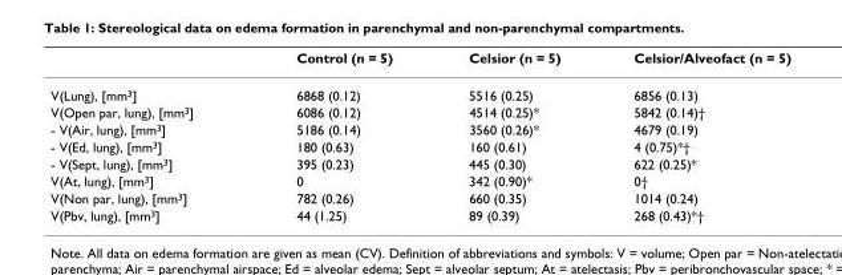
<table><thead><tr><td></td><td>Control (n = 5)</td><td>Celsior (n = 5)</td><td>Celsior/Alveofact (n = 5)</td></tr></thead><tbody><tr><td>V(Lung), [mm<sup>3</sup>]</td><td>6868 (0.12)</td><td>5516 (0.25)</td><td>6856 (0.13)</td></tr><tr><td>V(Open par, lung), [mm<sup>3</sup>]</td><td>6086 (0.12)</td><td>4514 (0.25)*</td><td>5842 (0.14)†</td></tr><tr><td>- V(Air, lung), [mm<sup>3</sup>]</td><td>5186 (0.14)</td><td>3560 (0.26)*</td><td>4679 (0.19)</td></tr><tr><td>- V(Ed, lung), [mm<sup>3</sup>]</td><td>180 (0.63)</td><td>160 (0.61)</td><td>4 (0.75)*†</td></tr><tr><td>- V(Sept, lung), [mm<sup>3</sup>]</td><td>395 (0.23)</td><td>445 (0.30)</td><td>622 (0.25)*</td></tr><tr><td>V(At, lung), [mm<sup>3</sup>]</td><td>0</td><td>342 (0.90)*</td><td>0†</td></tr><tr><td>V(Non par, lung), [mm<sup>3</sup>]</td><td>782 (0.26)</td><td>660 (0.35)</td><td>1014 (0.24)</td></tr><tr><td>V(Pbv, lung), [mm<sup>3</sup>]</td><td>44 (1.25)</td><td>89 (0.39)</td><td>268 (0.43)*†</td></tr></tbody></table>